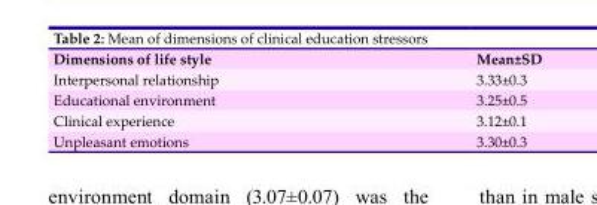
<table><thead><tr><td>Dimensions of life style</td><td>Mean±SD</td></tr></thead><tbody><tr><td>Interpersonal relationship</td><td>3.33±0.3</td></tr><tr><td>Educational environment</td><td>3.25±0.5</td></tr><tr><td>Clinical experience</td><td>3.12±0.1</td></tr><tr><td>Unpleasant emotions</td><td>3.30±0.3</td></tr></tbody></table>